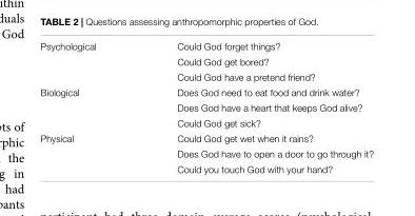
<table><tbody><tr><td rowspan="3">Psychological</td><td>Could God forget things?</td></tr><tr><td>Could God get bored?</td></tr><tr><td>Could God have a pretend friend?</td></tr><tr><td rowspan="3">Biological</td><td>Does God need to eat food and drink water?</td></tr><tr><td>Does God have a heart that keeps God alive?</td></tr><tr><td>Could God get sick?</td></tr><tr><td rowspan="3">Physical</td><td>Could God get wet when it rains?</td></tr><tr><td>Does God have to open a door to go through it?</td></tr><tr><td>Could you touch God with your hand?</td></tr></tbody></table>